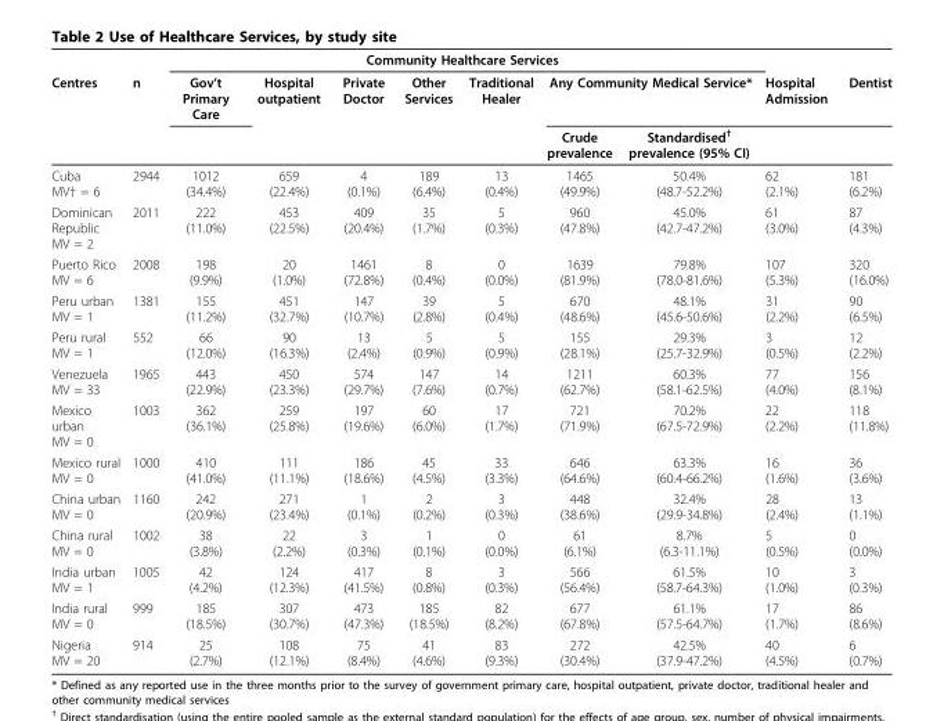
<table><thead><tr><td rowspan="3">Centres</td><td rowspan="3">n</td><td colspan="7">Community Healthcare Services</td><td rowspan="3">Hospital Admission</td><td rowspan="3">Dentist</td></tr><tr><td rowspan="2">Gov’t Primary Care</td><td rowspan="2">Hospital outpatient</td><td rowspan="2">Private Doctor</td><td rowspan="2">Other Services</td><td rowspan="2">Traditional Healer</td><td colspan="2">Any Community Medical Service*</td></tr><tr><td>Crude prevalence</td><td>Standardised<sup>†</sup> prevalence (95% CI)</td></tr></thead><tbody><tr><td>Cuba MV† = 6</td><td>2944</td><td>1012 (34.4%)</td><td>659 (22.4%)</td><td>4 (0.1%)</td><td>189 (6.4%)</td><td>13 (0.4%)</td><td>1465 (49.9%)</td><td>50.4% (48.7-52.2%)</td><td>62 (2.1%)</td><td>181 (6.2%)</td></tr><tr><td>Dominican Republic MV = 2</td><td>2011</td><td>222 (11.0%)</td><td>453 (22.5%)</td><td>409 (20.4%)</td><td>35 (1.7%)</td><td>5 (0.3%)</td><td>960 (47.8%)</td><td>45.0% (42.7-47.2%)</td><td>61 (3.0%)</td><td>87 (4.3%)</td></tr><tr><td>Puerto Rico MV = 6</td><td>2008</td><td>198 (9.9%)</td><td>20 (1.0%)</td><td>1461 (72.8%)</td><td>8 (0.4%)</td><td>0 (0.0%)</td><td>1639 (81.9%)</td><td>79.8% (78.0-81.6%)</td><td>107 (5.3%)</td><td>320 (16.0%)</td></tr><tr><td>Peru urban MV = 1</td><td>1381</td><td>155 (11.2%)</td><td>451 (32.7%)</td><td>147 (10.7%)</td><td>39 (2.8%)</td><td>5 (0.4%)</td><td>670 (48.6%)</td><td>48.1% (45.6-50.6%)</td><td>31 (2.2%)</td><td>90 (6.5%)</td></tr><tr><td>Peru rural MV = 1</td><td>552</td><td>66 (12.0%)</td><td>90 (16.3%)</td><td>13 (2.4%)</td><td>5 (0.9%)</td><td>5 (0.9%)</td><td>155 (28.1%)</td><td>29.3% (25.7-32.9%)</td><td>3 (0.5%)</td><td>12 (2.2%)</td></tr><tr><td>Venezuela MV = 33</td><td>1965</td><td>443 (22.9%)</td><td>450 (23.3%)</td><td>574 (29.7%)</td><td>147 (7.6%)</td><td>14 (0.7%)</td><td>1211 (62.7%)</td><td>60.3% (58.1-62.5%)</td><td>77 (4.0%)</td><td>156 (8.1%)</td></tr><tr><td>Mexico urban MV = 0</td><td>1003</td><td>362 (36.1%)</td><td>259 (25.8%)</td><td>197 (19.6%)</td><td>60 (6.0%)</td><td>17 (1.7%)</td><td>721 (71.9%)</td><td>70.2% (67.5-72.9%)</td><td>22 (2.2%)</td><td>118 (11.8%)</td></tr><tr><td>Mexico rural MV = 0</td><td>1000</td><td>410 (41.0%)</td><td>111 (11.1%)</td><td>186 (18.6%)</td><td>45 (4.5%)</td><td>33 (3.3%)</td><td>646 (64.6%)</td><td>63.3% (60.4-66.2%)</td><td>16 (1.6%)</td><td>36 (3.6%)</td></tr><tr><td>China urban MV = 0</td><td>1160</td><td>242 (20.9%)</td><td>271 (23.4%)</td><td>1 (0.1%)</td><td>2 (0.2%)</td><td>3 (0.3%)</td><td>448 (38.6%)</td><td>32.4% (29.9-34.8%)</td><td>28 (2.4%)</td><td>13 (1.1%)</td></tr><tr><td>China rural MV = 0</td><td>1002</td><td>38 (3.8%)</td><td>22 (2.2%)</td><td>3 (0.3%)</td><td>1 (0.1%)</td><td>0 (0.0%)</td><td>61 (6.1%)</td><td>8.7% (6.3-11.1%)</td><td>5 (0.5%)</td><td>0 (0.0%)</td></tr><tr><td>India urban MV = 1</td><td>1005</td><td>42 (4.2%)</td><td>124 (12.3%)</td><td>417 (41.5%)</td><td>8 (0.8%)</td><td>3 (0.3%)</td><td>566 (56.4%)</td><td>61.5% (58.7-64.3%)</td><td>10 (1.0%)</td><td>3 (0.3%)</td></tr><tr><td>India rural MV = 0</td><td>999</td><td>185 (18.5%)</td><td>307 (30.7%)</td><td>473 (47.3%)</td><td>185 (18.5%)</td><td>82 (8.2%)</td><td>677 (67.8%)</td><td>61.1% (57.5-64.7%)</td><td>17 (1.7%)</td><td>86 (8.6%)</td></tr><tr><td>Nigeria MV = 20</td><td>914</td><td>25 (2.7%)</td><td>108 (12.1%)</td><td>75 (8.4%)</td><td>41 (4.6%)</td><td>83 (9.3%)</td><td>272 (30.4%)</td><td>42.5% (37.9-47.2%)</td><td>40 (4.5%)</td><td>6 (0.7%)</td></tr></tbody></table>